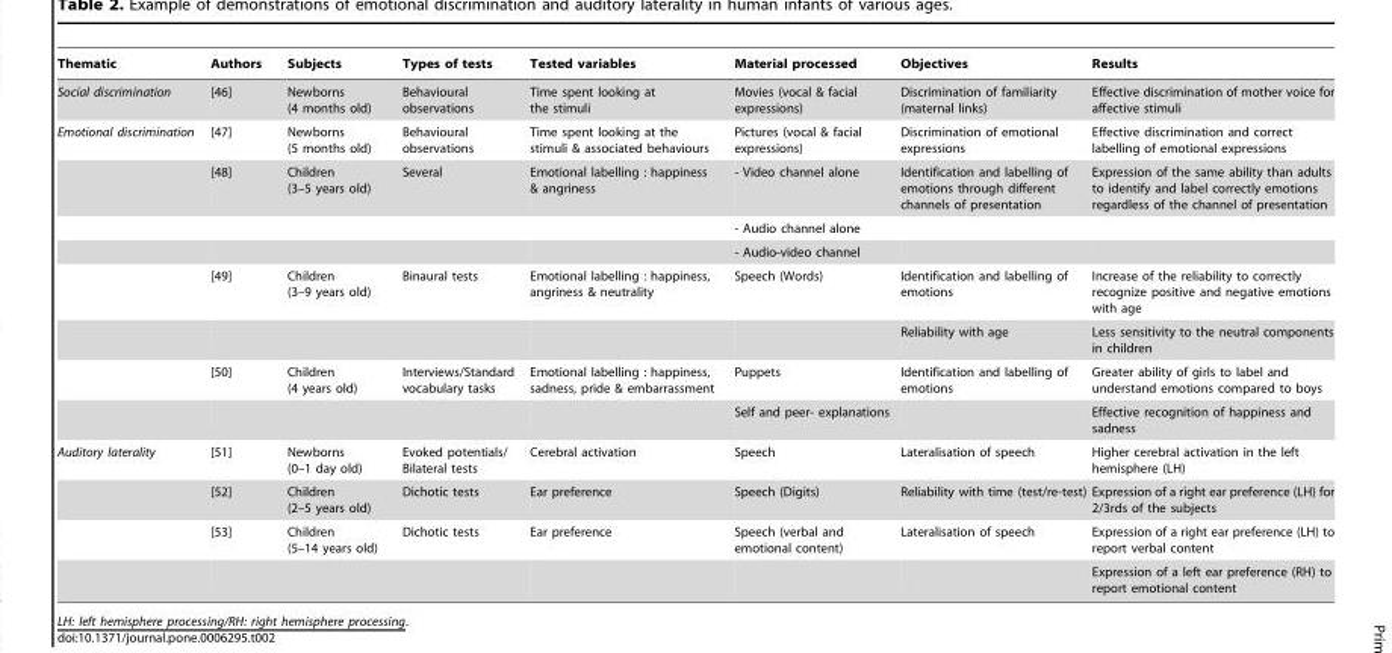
<table><thead><tr><td>Thematic</td><td>Authors</td><td>Subjects</td><td>Types of tests</td><td>Tested variables</td><td>Material processed</td><td>Objectives</td><td>Results</td></tr></thead><tbody><tr><td>Social discrimination</td><td>[46]</td><td>Newborns (4 months old)</td><td>Behavioural observations</td><td>Time spent looking at the stimuli</td><td>Movies (vocal &amp; facial expressions)</td><td>Discrimination of familiarity (maternal links)</td><td>Effective discrimination of mother voice for affective stimuli</td></tr><tr><td rowspan="8">Emotional discrimination</td><td>[47]</td><td>Newborns (5 months old)</td><td>Behavioural observations</td><td>Time spent looking at the stimuli &amp; associated behaviours</td><td>Pictures (vocal &amp; facial expressions)</td><td>Discrimination of emotional expressions</td><td>Effective discrimination and correct labelling of emotional expressions</td></tr><tr><td>[48]</td><td>Children (3–5 years old)</td><td>Several</td><td>Emotional labelling : happiness &amp; angriness</td><td>- Video channel alone</td><td>Identification and labelling of emotions through different channels of presentation</td><td>Expression of the same ability than adults to identify and label correctly emotions regardless of the channel of presentation</td></tr><tr><td></td><td></td><td></td><td></td><td>- Audio channel alone</td><td></td><td></td></tr><tr><td></td><td></td><td></td><td></td><td>- Audio-video channel</td><td></td><td></td></tr><tr><td>[49]</td><td>Children (3–9 years old)</td><td>Binaural tests</td><td>Emotional labelling : happiness, angriness &amp; neutrality</td><td>Speech (Words)</td><td>Identification and labelling of emotions</td><td>Increase of the reliability to correctly recognize positive and negative emotions with age</td></tr><tr><td></td><td></td><td></td><td></td><td></td><td>Reliability with age</td><td>Less sensitivity to the neutral components in children</td></tr><tr><td>[50]</td><td>Children (4 years old)</td><td>Interviews/Standard vocabulary tasks</td><td>Emotional labelling : happiness, sadness, pride &amp; embarrassment</td><td>Puppets</td><td>Identification and labelling of emotions</td><td>Greater ability of girls to label and understand emotions compared to boys</td></tr><tr><td></td><td></td><td></td><td></td><td>Self and peer- explanations</td><td></td><td>Effective recognition of happiness and sadness</td></tr><tr><td rowspan="4">Auditory laterality</td><td>[51]</td><td>Newborns (0–1 day old)</td><td>Evoked potentials/ Bilateral tests</td><td>Cerebral activation</td><td>Speech</td><td>Lateralisation of speech</td><td>Higher cerebral activation in the left hemisphere (LH)</td></tr><tr><td>[52]</td><td>Children (2–5 years old)</td><td>Dichotic tests</td><td>Ear preference</td><td>Speech (Digits)</td><td>Reliability with time (test/re-test)</td><td>Expression of a right ear preference (LH) for 2/3rds of the subjects</td></tr><tr><td>[53]</td><td>Children (5–14 years old)</td><td>Dichotic tests</td><td>Ear preference</td><td>Speech (verbal and emotional content)</td><td>Lateralisation of speech</td><td>Expression of a right ear preference (LH) to report verbal content</td></tr><tr><td></td><td></td><td></td><td></td><td></td><td></td><td>Expression of a left ear preference (RH) to report emotional content</td></tr></tbody></table>